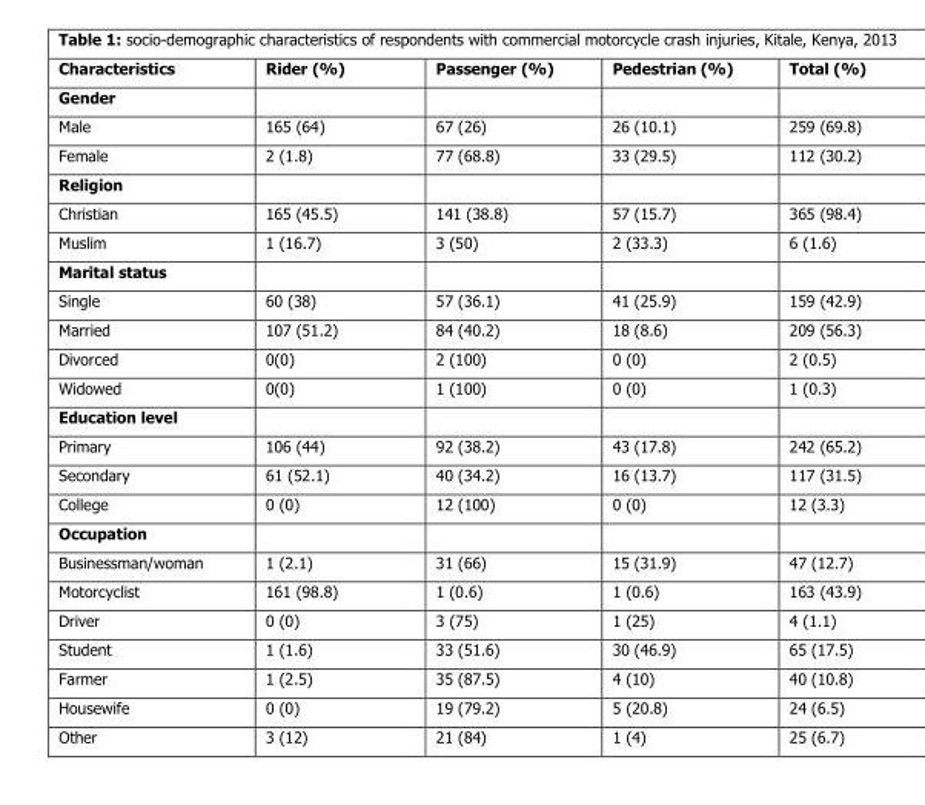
<table><thead><tr><td>Characteristics</td><td>Rider (%)</td><td>Passenger (%)</td><td>Pedestrian (%)</td><td>Total (%)</td></tr></thead><tbody><tr><td colspan="5">Gender</td></tr><tr><td>Male</td><td>165 (64)</td><td>67 (26)</td><td>26 (10.1)</td><td>259 (69.8)</td></tr><tr><td>Female</td><td>2 (1.8)</td><td>77 (68.8)</td><td>33 (29.5)</td><td>112 (30.2)</td></tr><tr><td colspan="5">Religion</td></tr><tr><td>Christian</td><td>165 (45.5)</td><td>141 (38.8)</td><td>57 (15.7)</td><td>365 (98.4)</td></tr><tr><td>Muslim</td><td>1 (16.7)</td><td>3 (50)</td><td>2 (33.3)</td><td>6 (1.6)</td></tr><tr><td colspan="5">Marital status</td></tr><tr><td>Single</td><td>60 (38)</td><td>57 (36.1)</td><td>41 (25.9)</td><td>159 (42.9)</td></tr><tr><td>Married</td><td>107 (51.2)</td><td>84 (40.2)</td><td>18 (8.6)</td><td>209 (56.3)</td></tr><tr><td>Divorced</td><td>0(0)</td><td>2 (100)</td><td>0 (0)</td><td>2 (0.5)</td></tr><tr><td>Widowed</td><td>0(0)</td><td>1 (100)</td><td>0 (0)</td><td>1 (0.3)</td></tr><tr><td colspan="5">Education level</td></tr><tr><td>Primary</td><td>106 (44)</td><td>92 (38.2)</td><td>43 (17.8)</td><td>242 (65.2)</td></tr><tr><td>Secondary</td><td>61 (52.1)</td><td>40 (34.2)</td><td>16 (13.7)</td><td>117 (31.5)</td></tr><tr><td>College</td><td>0 (0)</td><td>12 (100)</td><td>0 (0)</td><td>12 (3.3)</td></tr><tr><td colspan="5">Occupation</td></tr><tr><td>Businessman/woman</td><td>1 (2.1)</td><td>31 (66)</td><td>15 (31.9)</td><td>47 (12.7)</td></tr><tr><td>Motorcyclist</td><td>161 (98.8)</td><td>1 (0.6)</td><td>1 (0.6)</td><td>163 (43.9)</td></tr><tr><td>Driver</td><td>0 (0)</td><td>3 (75)</td><td>1 (25)</td><td>4 (1.1)</td></tr><tr><td>Student</td><td>1 (1.6)</td><td>33 (51.6)</td><td>30 (46.9)</td><td>65 (17.5)</td></tr><tr><td>Farmer</td><td>1 (2.5)</td><td>35 (87.5)</td><td>4 (10)</td><td>40 (10.8)</td></tr><tr><td>Housewife</td><td>0 (0)</td><td>19 (79.2)</td><td>5 (20.8)</td><td>24 (6.5)</td></tr><tr><td>Other</td><td>3 (12)</td><td>21 (84)</td><td>1 (4)</td><td>25 (6.7)</td></tr></tbody></table>